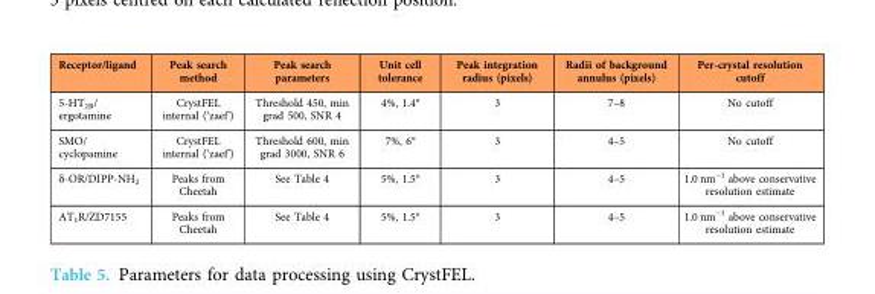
<table><thead><tr><td>Receptor/ligand</td><td>Peak search method</td><td>Peak search parameters</td><td>Unit cell tolerance</td><td>Peak integration radius (pixels)</td><td>Radii of background annulus (pixels)</td><td>Per-crystal resolution cutoff</td></tr></thead><tbody><tr><td>5-HT<sub>2B</sub>/ ergotamine</td><td>CrystFEL internal (‘zaef’)</td><td>Threshold 450, min grad 500, SNR 4</td><td>4%, 1.4°</td><td>3</td><td>7–8</td><td>No cutoff</td></tr><tr><td>SMO/ cyclopamine</td><td>CrystFEL internal (‘zaef’)</td><td>Threshold 600, min grad 3000, SNR 6</td><td>7%, 6°</td><td>3</td><td>4–5</td><td>No cutoff</td></tr><tr><td>δ-OR/DIPP-NH<sub>2</sub></td><td>Peaks from Cheetah</td><td>See Table 4</td><td>5%, 1.5°</td><td>3</td><td>4–5</td><td>1.0 nm<sup>−1</sup> above conservative resolution estimate</td></tr><tr><td>AT<sub>1</sub>R/ZD7155</td><td>Peaks from Cheetah</td><td>See Table 4</td><td>5%, 1.5°</td><td>3</td><td>4–5</td><td>1.0 nm<sup>−1</sup> above conservative resolution estimate</td></tr></tbody></table>